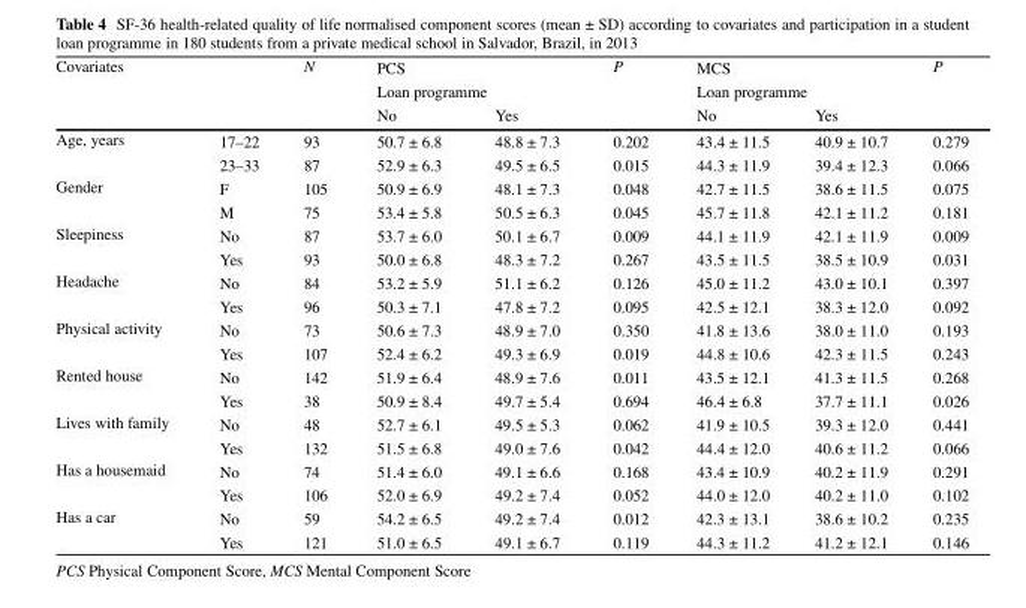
<table><thead><tr><td rowspan="3">Covariates</td><td rowspan="3"></td><td rowspan="3">N</td><td rowspan="2" colspan="2">PCS Loan programme</td><td rowspan="3">P</td><td rowspan="2" colspan="2">MCS Loan programme</td><td rowspan="3">P</td></tr><tr></tr><tr><td>No</td><td>Yes</td><td>No</td><td>Yes</td></tr></thead><tbody><tr><td rowspan="2">Age, years</td><td>17–22</td><td>93</td><td>50.7 ± 6.8</td><td>48.8 ± 7.3</td><td>0.202</td><td>43.4 ± 11.5</td><td>40.9 ± 10.7</td><td>0.279</td></tr><tr><td>23–33</td><td>87</td><td>52.9 ± 6.3</td><td>49.5 ± 6.5</td><td>0.015</td><td>44.3 ± 11.9</td><td>39.4 ± 12.3</td><td>0.066</td></tr><tr><td rowspan="2">Gender</td><td>F</td><td>105</td><td>50.9 ± 6.9</td><td>48.1 ± 7.3</td><td>0.048</td><td>42.7 ± 11.5</td><td>38.6 ± 11.5</td><td>0.075</td></tr><tr><td>M</td><td>75</td><td>53.4 ± 5.8</td><td>50.5 ± 6.3</td><td>0.045</td><td>45.7 ± 11.8</td><td>42.1 ± 11.2</td><td>0.181</td></tr><tr><td rowspan="2">Sleepiness</td><td>No</td><td>87</td><td>53.7 ± 6.0</td><td>50.1 ± 6.7</td><td>0.009</td><td>44.1 ± 11.9</td><td>42.1 ± 11.9</td><td>0.009</td></tr><tr><td>Yes</td><td>93</td><td>50.0 ± 6.8</td><td>48.3 ± 7.2</td><td>0.267</td><td>43.5 ± 11.5</td><td>38.5 ± 10.9</td><td>0.031</td></tr><tr><td rowspan="2">Headache</td><td>No</td><td>84</td><td>53.2 ± 5.9</td><td>51.1 ± 6.2</td><td>0.126</td><td>45.0 ± 11.2</td><td>43.0 ± 10.1</td><td>0.397</td></tr><tr><td>Yes</td><td>96</td><td>50.3 ± 7.1</td><td>47.8 ± 7.2</td><td>0.095</td><td>42.5 ± 12.1</td><td>38.3 ± 12.0</td><td>0.092</td></tr><tr><td rowspan="2">Physical activity</td><td>No</td><td>73</td><td>50.6 ± 7.3</td><td>48.9 ± 7.0</td><td>0.350</td><td>41.8 ± 13.6</td><td>38.0 ± 11.0</td><td>0.193</td></tr><tr><td>Yes</td><td>107</td><td>52.4 ± 6.2</td><td>49.3 ± 6.9</td><td>0.019</td><td>44.8 ± 10.6</td><td>42.3 ± 11.5</td><td>0.243</td></tr><tr><td rowspan="2">Rented house</td><td>No</td><td>142</td><td>51.9 ± 6.4</td><td>48.9 ± 7.6</td><td>0.011</td><td>43.5 ± 12.1</td><td>41.3 ± 11.5</td><td>0.268</td></tr><tr><td>Yes</td><td>38</td><td>50.9 ± 8.4</td><td>49.7 ± 5.4</td><td>0.694</td><td>46.4 ± 6.8</td><td>37.7 ± 11.1</td><td>0.026</td></tr><tr><td rowspan="2">Lives with family</td><td>No</td><td>48</td><td>52.7 ± 6.1</td><td>49.5 ± 5.3</td><td>0.062</td><td>41.9 ± 10.5</td><td>39.3 ± 12.0</td><td>0.441</td></tr><tr><td>Yes</td><td>132</td><td>51.5 ± 6.8</td><td>49.0 ± 7.6</td><td>0.042</td><td>44.4 ± 12.0</td><td>40.6 ± 11.2</td><td>0.066</td></tr><tr><td rowspan="2">Has a housemaid</td><td>No</td><td>74</td><td>51.4 ± 6.0</td><td>49.1 ± 6.6</td><td>0.168</td><td>43.4 ± 10.9</td><td>40.2 ± 11.9</td><td>0.291</td></tr><tr><td>Yes</td><td>106</td><td>52.0 ± 6.9</td><td>49.2 ± 7.4</td><td>0.052</td><td>44.0 ± 12.0</td><td>40.2 ± 11.0</td><td>0.102</td></tr><tr><td rowspan="2">Has a car</td><td>No</td><td>59</td><td>54.2 ± 6.5</td><td>49.2 ± 7.4</td><td>0.012</td><td>42.3 ± 13.1</td><td>38.6 ± 10.2</td><td>0.235</td></tr><tr><td>Yes</td><td>121</td><td>51.0 ± 6.5</td><td>49.1 ± 6.7</td><td>0.119</td><td>44.3 ± 11.2</td><td>41.2 ± 12.1</td><td>0.146</td></tr></tbody></table>